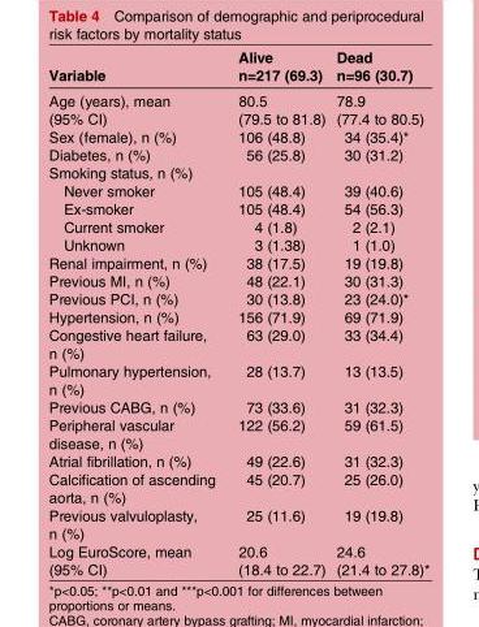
<table><thead><tr><td rowspan="2">Variable</td><td rowspan="2">Alive n=217 (69.3)</td><td rowspan="2">Dead n=96 (30.7)</td></tr><tr></tr></thead><tbody><tr><td>Age (years), mean (95% CI)</td><td>80.5 (79.5 to 81.8)</td><td>78.9 (77.4 to 80.5)</td></tr><tr><td>Sex (female), n (%)</td><td>106 (48.8)</td><td>34 (35.4)*</td></tr><tr><td>Diabetes, n (%)</td><td>56 (25.8)</td><td>30 (31.2)</td></tr><tr><td colspan="3">Smoking status, n (%)</td></tr><tr><td>Never smoker</td><td>105 (48.4)</td><td>39 (40.6)</td></tr><tr><td>Ex-smoker</td><td>105 (48.4)</td><td>54 (56.3)</td></tr><tr><td>Current smoker</td><td>4 (1.8)</td><td>2 (2.1)</td></tr><tr><td>Unknown</td><td>3 (1.38)</td><td>1 (1.0)</td></tr><tr><td>Renal impairment, n (%)</td><td>38 (17.5)</td><td>19 (19.8)</td></tr><tr><td>Previous MI, n (%)</td><td>48 (22.1)</td><td>30 (31.3)</td></tr><tr><td>Previous PCI, n (%)</td><td>30 (13.8)</td><td>23 (24.0)*</td></tr><tr><td>Hypertension, n (%)</td><td>156 (71.9)</td><td>69 (71.9)</td></tr><tr><td>Congestive heart failure, n (%)</td><td>63 (29.0)</td><td>33 (34.4)</td></tr><tr><td>Pulmonary hypertension, n (%)</td><td>28 (13.7)</td><td>13 (13.5)</td></tr><tr><td>Previous CABG, n (%)</td><td>73 (33.6)</td><td>31 (32.3)</td></tr><tr><td>Peripheral vascular disease, n (%)</td><td>122 (56.2)</td><td>59 (61.5)</td></tr><tr><td>Atrial fibrillation, n (%)</td><td>49 (22.6)</td><td>31 (32.3)</td></tr><tr><td>Calcification of ascending aorta, n (%)</td><td>45 (20.7)</td><td>25 (26.0)</td></tr><tr><td>Previous valvuloplasty, n (%)</td><td>25 (11.6)</td><td>19 (19.8)</td></tr><tr><td>Log EuroScore, mean (95% CI)</td><td>20.6 (18.4 to 22.7)</td><td>24.6 (21.4 to 27.8)*</td></tr></tbody></table>